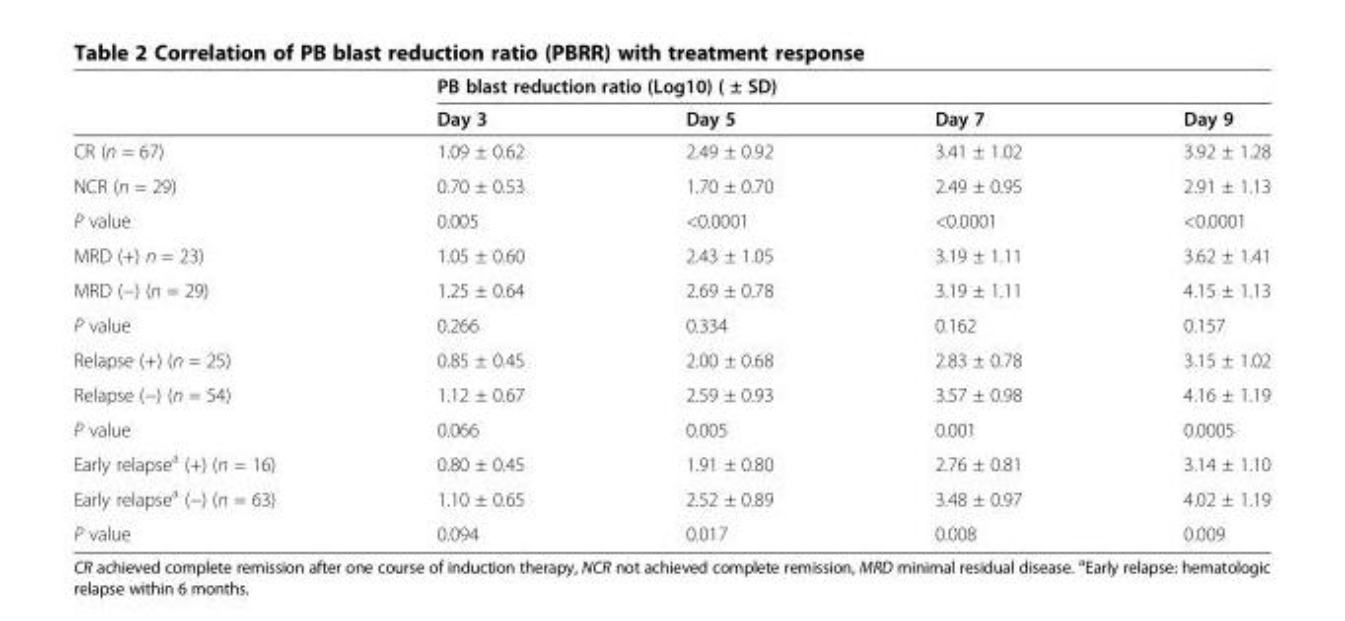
<table><thead><tr><td rowspan="2"></td><td colspan="4">PB blast reduction ratio (Log10) ( ± SD)</td></tr><tr><td>Day 3</td><td>Day 5</td><td>Day 7</td><td>Day 9</td></tr></thead><tbody><tr><td>CR (n = 67)</td><td>1.09 ± 0.62</td><td>2.49 ± 0.92</td><td>3.41 ± 1.02</td><td>3.92 ± 1.28</td></tr><tr><td>NCR (n = 29)</td><td>0.70 ± 0.53</td><td>1.70 ± 0.70</td><td>2.49 ± 0.95</td><td>2.91 ± 1.13</td></tr><tr><td>P value</td><td>0.005</td><td>&lt;0.0001</td><td>&lt;0.0001</td><td>&lt;0.0001</td></tr><tr><td>MRD (+) n = 23)</td><td>1.05 ± 0.60</td><td>2.43 ± 1.05</td><td>3.19 ± 1.11</td><td>3.62 ± 1.41</td></tr><tr><td>MRD (−) (n = 29)</td><td>1.25 ± 0.64</td><td>2.69 ± 0.78</td><td>3.19 ± 1.11</td><td>4.15 ± 1.13</td></tr><tr><td>P value</td><td>0.266</td><td>0.334</td><td>0.162</td><td>0.157</td></tr><tr><td>Relapse (+) (n = 25)</td><td>0.85 ± 0.45</td><td>2.00 ± 0.68</td><td>2.83 ± 0.78</td><td>3.15 ± 1.02</td></tr><tr><td>Relapse (−) (n = 54)</td><td>1.12 ± 0.67</td><td>2.59 ± 0.93</td><td>3.57 ± 0.98</td><td>4.16 ± 1.19</td></tr><tr><td>P value</td><td>0.066</td><td>0.005</td><td>0.001</td><td>0.0005</td></tr><tr><td>Early relapse<sup>a</sup> (+) (n = 16)</td><td>0.80 ± 0.45</td><td>1.91 ± 0.80</td><td>2.76 ± 0.81</td><td>3.14 ± 1.10</td></tr><tr><td>Early relapse<sup>a</sup> (−) (n = 63)</td><td>1.10 ± 0.65</td><td>2.52 ± 0.89</td><td>3.48 ± 0.97</td><td>4.02 ± 1.19</td></tr><tr><td>P value</td><td>0.094</td><td>0.017</td><td>0.008</td><td>0.009</td></tr></tbody></table>